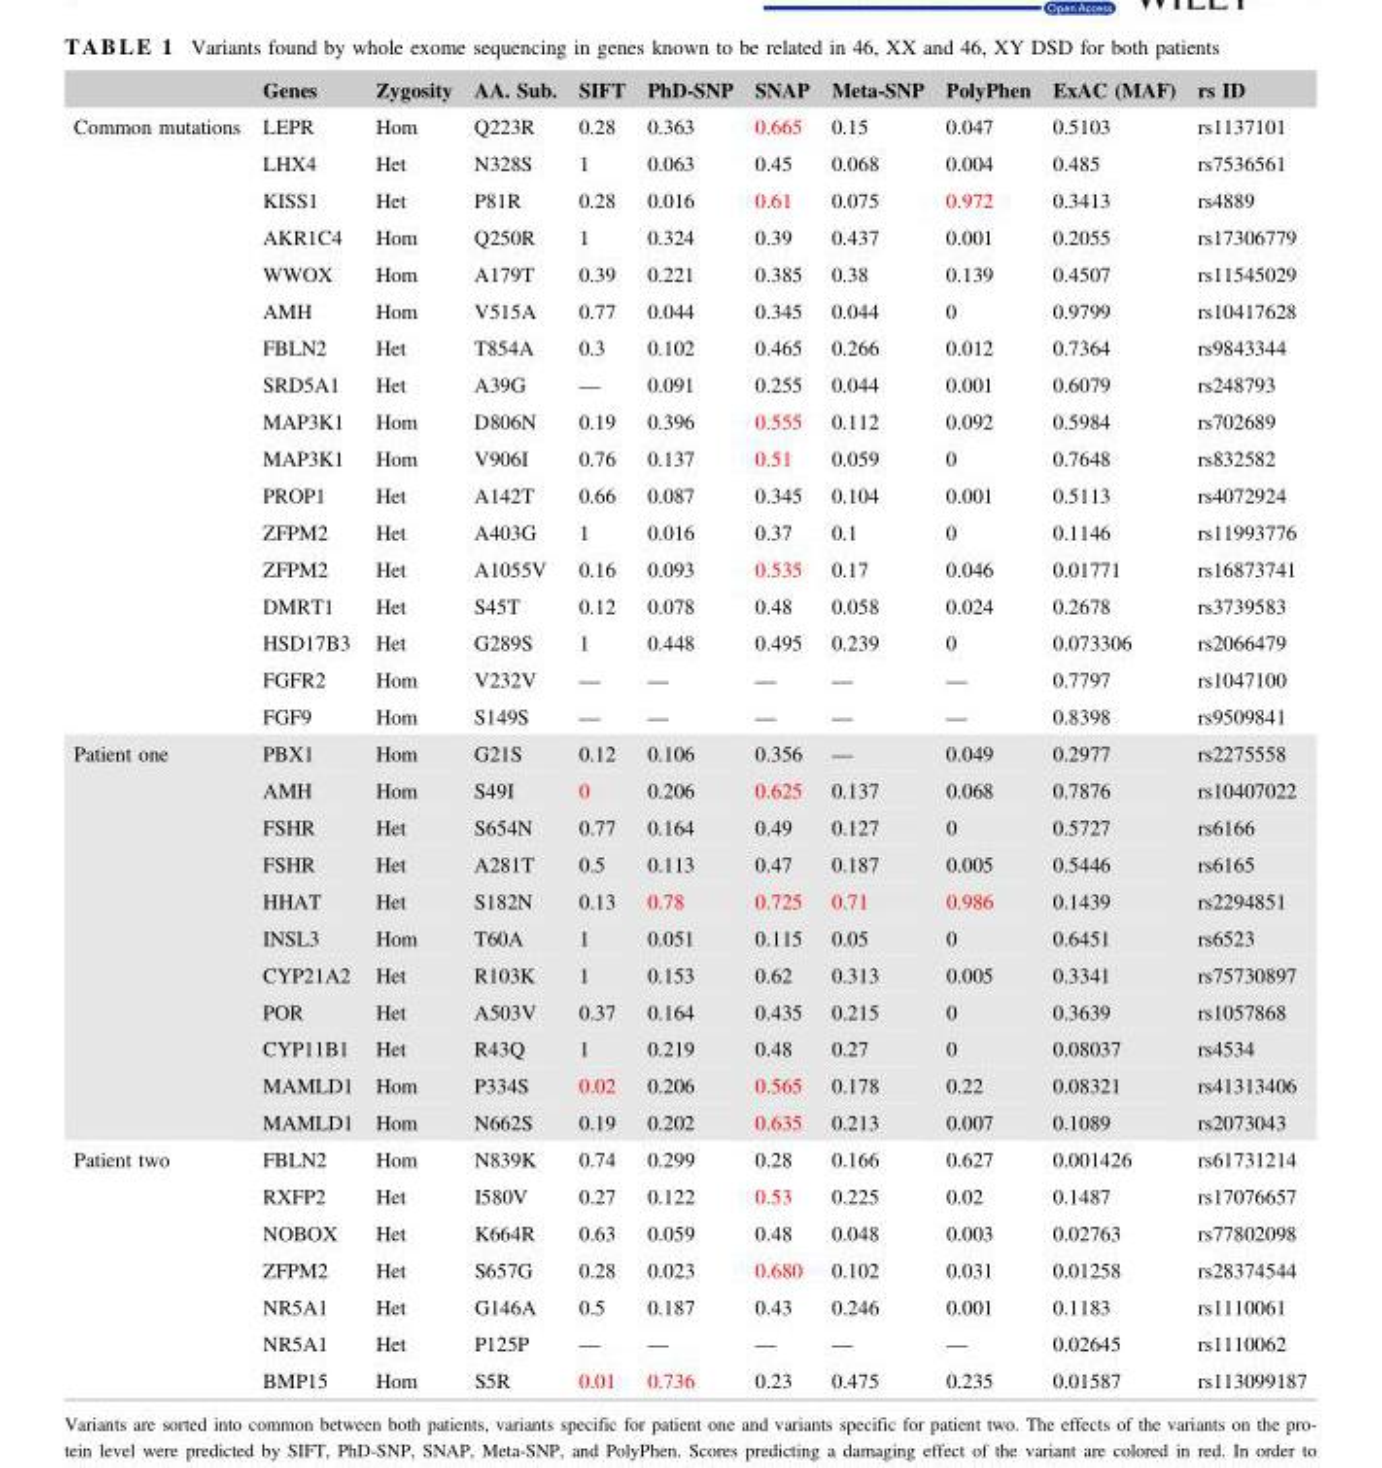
<table><thead><tr><td></td><td>Genes</td><td>Zygosity</td><td>AA. Sub.</td><td>SIFT</td><td>PhD‐SNP</td><td>SNAP</td><td>Meta‐SNP</td><td>PolyPhen</td><td>ExAC (MAF)</td><td>rs ID</td></tr></thead><tbody><tr><td rowspan="17">Common mutations</td><td>LEPR</td><td>Hom</td><td>Q223R</td><td>0.28</td><td>0.363</td><td>0.665</td><td>0.15</td><td>0.047</td><td>0.5103</td><td>rs1137101</td></tr><tr><td>LHX4</td><td>Het</td><td>N328S</td><td>1</td><td>0.063</td><td>0.45</td><td>0.068</td><td>0.004</td><td>0.485</td><td>rs7536561</td></tr><tr><td>KISS1</td><td>Het</td><td>P81R</td><td>0.28</td><td>0.016</td><td>0.61</td><td>0.075</td><td>0.972</td><td>0.3413</td><td>rs4889</td></tr><tr><td>AKR1C4</td><td>Hom</td><td>Q250R</td><td>1</td><td>0.324</td><td>0.39</td><td>0.437</td><td>0.001</td><td>0.2055</td><td>rs17306779</td></tr><tr><td>WWOX</td><td>Hom</td><td>A179T</td><td>0.39</td><td>0.221</td><td>0.385</td><td>0.38</td><td>0.139</td><td>0.4507</td><td>rs11545029</td></tr><tr><td>AMH</td><td>Hom</td><td>V515A</td><td>0.77</td><td>0.044</td><td>0.345</td><td>0.044</td><td>0</td><td>0.9799</td><td>rs10417628</td></tr><tr><td>FBLN2</td><td>Het</td><td>T854A</td><td>0.3</td><td>0.102</td><td>0.465</td><td>0.266</td><td>0.012</td><td>0.7364</td><td>rs9843344</td></tr><tr><td>SRD5A1</td><td>Het</td><td>A39G</td><td>—</td><td>0.091</td><td>0.255</td><td>0.044</td><td>0.001</td><td>0.6079</td><td>rs248793</td></tr><tr><td>MAP3K1</td><td>Hom</td><td>D806N</td><td>0.19</td><td>0.396</td><td>0.555</td><td>0.112</td><td>0.092</td><td>0.5984</td><td>rs702689</td></tr><tr><td>MAP3K1</td><td>Hom</td><td>V906I</td><td>0.76</td><td>0.137</td><td>0.51</td><td>0.059</td><td>0</td><td>0.7648</td><td>rs832582</td></tr><tr><td>PROP1</td><td>Het</td><td>A142T</td><td>0.66</td><td>0.087</td><td>0.345</td><td>0.104</td><td>0.001</td><td>0.5113</td><td>rs4072924</td></tr><tr><td>ZFPM2</td><td>Het</td><td>A403G</td><td>1</td><td>0.016</td><td>0.37</td><td>0.1</td><td>0</td><td>0.1146</td><td>rs11993776</td></tr><tr><td>ZFPM2</td><td>Het</td><td>A1055V</td><td>0.16</td><td>0.093</td><td>0.535</td><td>0.17</td><td>0.046</td><td>0.01771</td><td>rs16873741</td></tr><tr><td>DMRT1</td><td>Het</td><td>S45T</td><td>0.12</td><td>0.078</td><td>0.48</td><td>0.058</td><td>0.024</td><td>0.2678</td><td>rs3739583</td></tr><tr><td>HSD17B3</td><td>Het</td><td>G289S</td><td>1</td><td>0.448</td><td>0.495</td><td>0.239</td><td>0</td><td>0.073306</td><td>rs2066479</td></tr><tr><td>FGFR2</td><td>Hom</td><td>V232V</td><td>—</td><td>—</td><td>—</td><td>—</td><td>—</td><td>0.7797</td><td>rs1047100</td></tr><tr><td>FGF9</td><td>Hom</td><td>S149S</td><td>—</td><td>—</td><td>—</td><td>—</td><td>—</td><td>0.8398</td><td>rs9509841</td></tr><tr><td rowspan="11">Patient one</td><td>PBX1</td><td>Hom</td><td>G21S</td><td>0.12</td><td>0.106</td><td>0.356</td><td>—</td><td>0.049</td><td>0.2977</td><td>rs2275558</td></tr><tr><td>AMH</td><td>Hom</td><td>S49I</td><td>0</td><td>0.206</td><td>0.625</td><td>0.137</td><td>0.068</td><td>0.7876</td><td>rs10407022</td></tr><tr><td>FSHR</td><td>Het</td><td>S654N</td><td>0.77</td><td>0.164</td><td>0.49</td><td>0.127</td><td>0</td><td>0.5727</td><td>rs6166</td></tr><tr><td>FSHR</td><td>Het</td><td>A281T</td><td>0.5</td><td>0.113</td><td>0.47</td><td>0.187</td><td>0.005</td><td>0.5446</td><td>rs6165</td></tr><tr><td>HHAT</td><td>Het</td><td>S182N</td><td>0.13</td><td>0.78</td><td>0.725</td><td>0.71</td><td>0.986</td><td>0.1439</td><td>rs2294851</td></tr><tr><td>INSL3</td><td>Hom</td><td>T60A</td><td>1</td><td>0.051</td><td>0.115</td><td>0.05</td><td>0</td><td>0.6451</td><td>rs6523</td></tr><tr><td>CYP21A2</td><td>Het</td><td>R103K</td><td>1</td><td>0.153</td><td>0.62</td><td>0.313</td><td>0.005</td><td>0.3341</td><td>rs75730897</td></tr><tr><td>POR</td><td>Het</td><td>A503V</td><td>0.37</td><td>0.164</td><td>0.435</td><td>0.215</td><td>0</td><td>0.3639</td><td>rs1057868</td></tr><tr><td>CYP11B1</td><td>Het</td><td>R43Q</td><td>1</td><td>0.219</td><td>0.48</td><td>0.27</td><td>0</td><td>0.08037</td><td>rs4534</td></tr><tr><td>MAMLD1</td><td>Hom</td><td>P334S</td><td>0.02</td><td>0.206</td><td>0.565</td><td>0.178</td><td>0.22</td><td>0.08321</td><td>rs41313406</td></tr><tr><td>MAMLD1</td><td>Hom</td><td>N662S</td><td>0.19</td><td>0.202</td><td>0.635</td><td>0.213</td><td>0.007</td><td>0.1089</td><td>rs2073043</td></tr><tr><td rowspan="7">Patient two</td><td>FBLN2</td><td>Hom</td><td>N839K</td><td>0.74</td><td>0.299</td><td>0.28</td><td>0.166</td><td>0.627</td><td>0.001426</td><td>rs61731214</td></tr><tr><td>RXFP2</td><td>Het</td><td>I580V</td><td>0.27</td><td>0.122</td><td>0.53</td><td>0.225</td><td>0.02</td><td>0.1487</td><td>rs17076657</td></tr><tr><td>NOBOX</td><td>Het</td><td>K664R</td><td>0.63</td><td>0.059</td><td>0.48</td><td>0.048</td><td>0.003</td><td>0.02763</td><td>rs77802098</td></tr><tr><td>ZFPM2</td><td>Het</td><td>S657G</td><td>0.28</td><td>0.023</td><td>0.680</td><td>0.102</td><td>0.031</td><td>0.01258</td><td>rs28374544</td></tr><tr><td>NR5A1</td><td>Het</td><td>G146A</td><td>0.5</td><td>0.187</td><td>0.43</td><td>0.246</td><td>0.001</td><td>0.1183</td><td>rs1110061</td></tr><tr><td>NR5A1</td><td>Het</td><td>P125P</td><td>—</td><td>—</td><td>—</td><td>—</td><td>—</td><td>0.02645</td><td>rs1110062</td></tr><tr><td>BMP15</td><td>Hom</td><td>S5R</td><td>0.01</td><td>0.736</td><td>0.23</td><td>0.475</td><td>0.235</td><td>0.01587</td><td>rs113099187</td></tr></tbody></table>